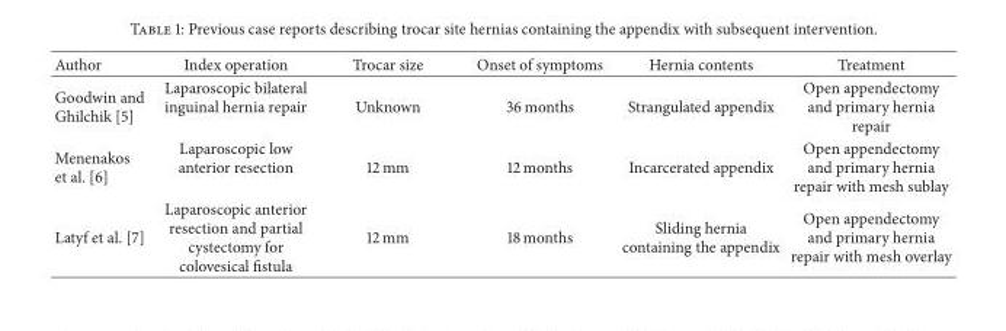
<table><thead><tr><td>Author</td><td>Index operation</td><td>Trocar size</td><td>Onset of symptoms</td><td>Hernia contents</td><td>Treatment</td></tr></thead><tbody><tr><td>Goodwin and Ghilchik [5]</td><td>Laparoscopic bilateral inguinal hernia repair</td><td>Unknown</td><td>36 months</td><td>Strangulated appendix</td><td>Open appendectomy and primary hernia repair</td></tr><tr><td>Menenakos et al. [6]</td><td>Laparoscopic low anterior resection</td><td>12 mm</td><td>12 months</td><td>Incarcerated appendix</td><td>Open appendectomy and primary hernia repair with mesh sublay</td></tr><tr><td>Latyf et al. [7]</td><td>Laparoscopic anterior resection and partial cystectomy for colovesical fistula</td><td>12 mm</td><td>18 months</td><td>Sliding hernia containing the appendix</td><td>Open appendectomy and primary hernia repair with mesh overlay</td></tr></tbody></table>